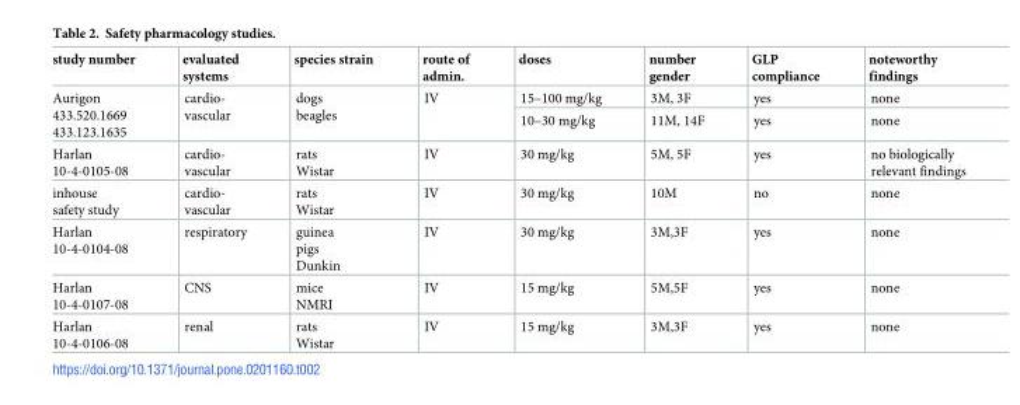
<table><thead><tr><td>study number</td><td>evaluated systems</td><td>species strain</td><td>route of admin.</td><td>doses</td><td>number gender</td><td>GLP compliance</td><td>noteworthy findings</td></tr></thead><tbody><tr><td rowspan="2">Aurigon 433.520.1669 433.123.1635</td><td rowspan="2">cardio- vascular</td><td rowspan="2">dogs beagles</td><td rowspan="2">IV</td><td>15–100 mg/kg</td><td>3M, 3F</td><td>yes</td><td>none</td></tr><tr><td>10–30 mg/kg</td><td>11M, 14F</td><td>yes</td><td>none</td></tr><tr><td>Harlan 10-4-0105-08</td><td>cardio- vascular</td><td>rats Wistar</td><td>IV</td><td>30 mg/kg</td><td>5M, 5F</td><td>yes</td><td>no biologically relevant findings</td></tr><tr><td>inhouse safety study</td><td>cardio- vascular</td><td>rats Wistar</td><td>IV</td><td>30 mg/kg</td><td>10M</td><td>no</td><td>none</td></tr><tr><td>Harlan 10-4-0104-08</td><td>respiratory</td><td>guinea pigs Dunkin</td><td>IV</td><td>30 mg/kg</td><td>3M,3F</td><td>yes</td><td>none</td></tr><tr><td>Harlan 10-4-0107-08</td><td>CNS</td><td>mice NMRI</td><td>IV</td><td>15 mg/kg</td><td>5M,5F</td><td>yes</td><td>none</td></tr><tr><td>Harlan 10-4-0106-08</td><td>renal</td><td>rats Wistar</td><td>IV</td><td>15 mg/kg</td><td>3M,3F</td><td>yes</td><td>none</td></tr></tbody></table>